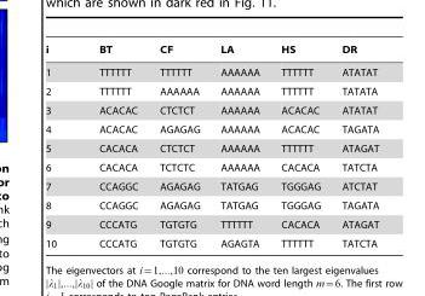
<table><thead><tr><td>i</td><td>BT</td><td>CF</td><td>LA</td><td>HS</td><td>DR</td></tr></thead><tbody><tr><td>1</td><td>TTTTTT</td><td>TTTTTT</td><td>AAAAAA</td><td>TTTTTT</td><td>ATATAT</td></tr><tr><td>2</td><td>TTTTTT</td><td>AAAAAA</td><td>AAAAAA</td><td>TTTTTT</td><td>TATATA</td></tr><tr><td>3</td><td>ACACAC</td><td>CTCTCT</td><td>AAAAAA</td><td>ACACAC</td><td>ATATAT</td></tr><tr><td>4</td><td>ACACAC</td><td>AGAGAG</td><td>AAAAAA</td><td>ACACAC</td><td>TAGATA</td></tr><tr><td>5</td><td>CACACA</td><td>CTCTCT</td><td>AAAAAA</td><td>TTTTTT</td><td>ATAGAT</td></tr><tr><td>6</td><td>CACACA</td><td>TCTCTC</td><td>AAAAAA</td><td>CACACA</td><td>TATCTA</td></tr><tr><td>7</td><td>CCAGGC</td><td>AGAGAG</td><td>TATGAG</td><td>TGGGAG</td><td>ATCTAT</td></tr><tr><td>8</td><td>CCAGGC</td><td>AGAGAG</td><td>TATGAG</td><td>TGGGAG</td><td>TAGATA</td></tr><tr><td>9</td><td>CCCATG</td><td>TGTGTG</td><td>TTTTTT</td><td>CACACA</td><td>ATAGAT</td></tr><tr><td>10</td><td>CCCATG</td><td>TGTGTG</td><td>AGAGTA</td><td>TTTTTT</td><td>TATCTA</td></tr></tbody></table>